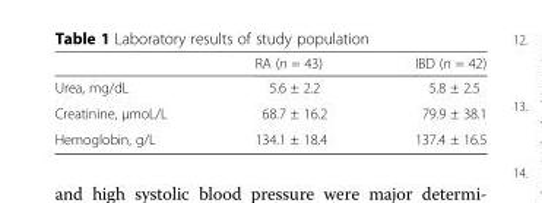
<table><thead><tr><td></td><td>RA (n = 43)</td><td>IBD (n = 42)</td></tr></thead><tbody><tr><td>Urea, mg/dL</td><td>5.6 ± 2.2</td><td>5.8 ± 2.5</td></tr><tr><td>Creatinine, μmoL/L</td><td>68.7 ± 16.2</td><td>79.9 ± 38.1</td></tr><tr><td>Hemoglobin, g/L</td><td>134.1 ± 18.4</td><td>137.4 ± 16.5</td></tr></tbody></table>